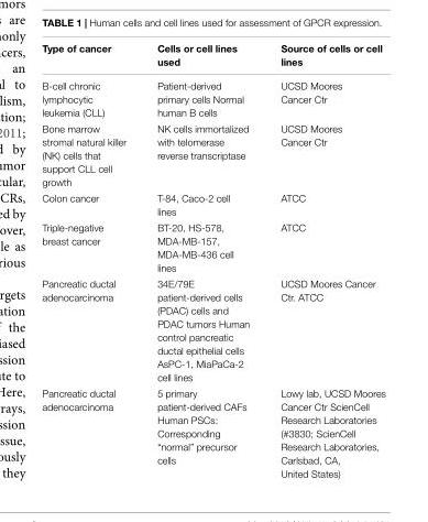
<table><thead><tr><td>Type of cancer</td><td>Cells or cell lines used</td><td>Source of cells or cell lines</td></tr></thead><tbody><tr><td>B-cell chronic lymphocytic leukemia (CLL)</td><td>Patient-derived primary cells Normal human B cells</td><td>UCSD Moores Cancer Ctr</td></tr><tr><td>Bone marrow stromal natural killer (NK) cells that support CLL cell growth</td><td>NK cells immortalized with telomerase reverse transcriptase</td><td>UCSD Moores Cancer Ctr</td></tr><tr><td>Colon cancer</td><td>T-84, Caco-2 cell lines</td><td>ATCC</td></tr><tr><td>Triple-negative breast cancer</td><td>BT-20, HS-578, MDA-MB-157, MDA-MB-436 cell lines</td><td>ATCC</td></tr><tr><td>Pancreatic ductal adenocarcinoma</td><td>34E/79E patient-derived cells (PDAC) cells and PDAC tumors Human control pancreatic ductal epithelial cells AsPC-1, MiaPaCa-2 cell lines</td><td>UCSD Moores Cancer Ctr. ATCC</td></tr><tr><td>Pancreatic ductal adenocarcinoma</td><td>5 primary patient-derived CAFs Human PSCs: Corresponding “normal” precursor cells</td><td>Lowy lab, UCSD Moores Cancer Ctr ScienCell Research Laboratories (#3830; ScienCell Research Laboratories, Carlsbad, CA, United States)</td></tr></tbody></table>